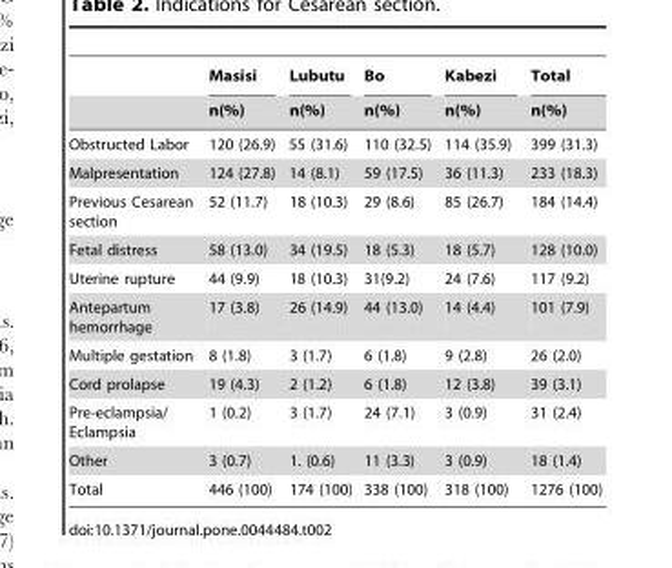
<table><thead><tr><td rowspan="2"></td><td rowspan="2">Masisi n(%)</td><td rowspan="2">Lubutu n(%)</td><td rowspan="2">Bo n(%)</td><td rowspan="2">Kabezi n(%)</td><td rowspan="2">Total n(%)</td></tr><tr></tr></thead><tbody><tr><td>Obstructed Labor</td><td>120 (26.9)</td><td>55 (31.6)</td><td>110 (32.5)</td><td>114 (35.9)</td><td>399 (31.3)</td></tr><tr><td>Malpresentation</td><td>124 (27.8)</td><td>14 (8.1)</td><td>59 (17.5)</td><td>36 (11.3)</td><td>233 (18.3)</td></tr><tr><td>Previous Cesarean section</td><td>52 (11.7)</td><td>18 (10.3)</td><td>29 (8.6)</td><td>85 (26.7)</td><td>184 (14.4)</td></tr><tr><td>Fetal distress</td><td>58 (13.0)</td><td>34 (19.5)</td><td>18 (5.3)</td><td>18 (5.7)</td><td>128 (10.0)</td></tr><tr><td>Uterine rupture</td><td>44 (9.9)</td><td>18 (10.3)</td><td>31(9.2)</td><td>24 (7.6)</td><td>117 (9.2)</td></tr><tr><td>Antepartum hemorrhage</td><td>17 (3.8)</td><td>26 (14.9)</td><td>44 (13.0)</td><td>14 (4.4)</td><td>101 (7.9)</td></tr><tr><td>Multiple gestation</td><td>8 (1.8)</td><td>3 (1.7)</td><td>6 (1.8)</td><td>9 (2.8)</td><td>26 (2.0)</td></tr><tr><td>Cord prolapse</td><td>19 (4.3)</td><td>2 (1.2)</td><td>6 (1.8)</td><td>12 (3.8)</td><td>39 (3.1)</td></tr><tr><td>Pre-eclampsia/ Eclampsia</td><td>1 (0.2)</td><td>3 (1.7)</td><td>24 (7.1)</td><td>3 (0.9)</td><td>31 (2.4)</td></tr><tr><td>Other</td><td>3 (0.7)</td><td>1. (0.6)</td><td>11 (3.3)</td><td>3 (0.9)</td><td>18 (1.4)</td></tr><tr><td>Total</td><td>446 (100)</td><td>174 (100)</td><td>338 (100)</td><td>318 (100)</td><td>1276 (100)</td></tr></tbody></table>